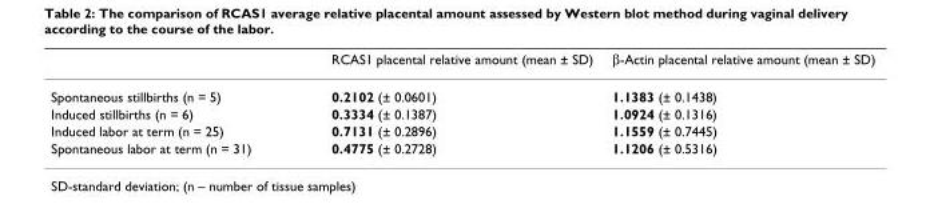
<table><thead><tr><td></td><td>RCAS1 placental relative amount (mean ± SD)</td><td>β-Actin placental relative amount (mean ± SD)</td></tr></thead><tbody><tr><td>Spontaneous stillbirths (n = 5)</td><td>0.2102 (± 0.0601)</td><td>1.1383 (± 0.1438)</td></tr><tr><td>Induced stillbirths (n = 6)</td><td>0.3334 (± 0.1387)</td><td>1.0924 (± 0.1316)</td></tr><tr><td>Induced labor at term (n = 25)</td><td>0.7131 (± 0.2896)</td><td>1.1559 (± 0.7445)</td></tr><tr><td>Spontaneous labor at term (n = 31)</td><td>0.4775 (± 0.2728)</td><td>1.1206 (± 0.5316)</td></tr></tbody></table>